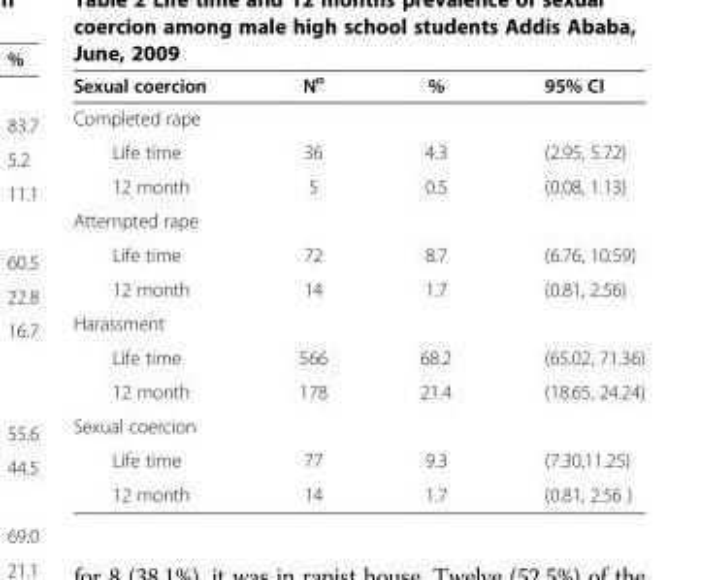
<table><thead><tr><td>Sexual coercion</td><td>N<sup>o</sup></td><td>%</td><td>95% CI</td></tr></thead><tbody><tr><td colspan="4">Completed rape</td></tr><tr><td>Life time</td><td>36</td><td>4.3</td><td>(2.95, 5.72)</td></tr><tr><td>12 month</td><td>5</td><td>0.5</td><td>(0.08, 1.13)</td></tr><tr><td colspan="4">Attempted rape</td></tr><tr><td>Life time</td><td>72</td><td>8.7</td><td>(6.76, 10.59)</td></tr><tr><td>12 month</td><td>14</td><td>1.7</td><td>(0.81, 2.56)</td></tr><tr><td colspan="4">Harassment</td></tr><tr><td>Life time</td><td>566</td><td>68.2</td><td>(65.02, 71.36)</td></tr><tr><td>12 month</td><td>178</td><td>21.4</td><td>(18.65, 24.24)</td></tr><tr><td colspan="4">Sexual coercion</td></tr><tr><td>Life time</td><td>77</td><td>9.3</td><td>(7.30,11.25)</td></tr><tr><td>12 month</td><td>14</td><td>1.7</td><td>(0.81, 2.56 )</td></tr></tbody></table>